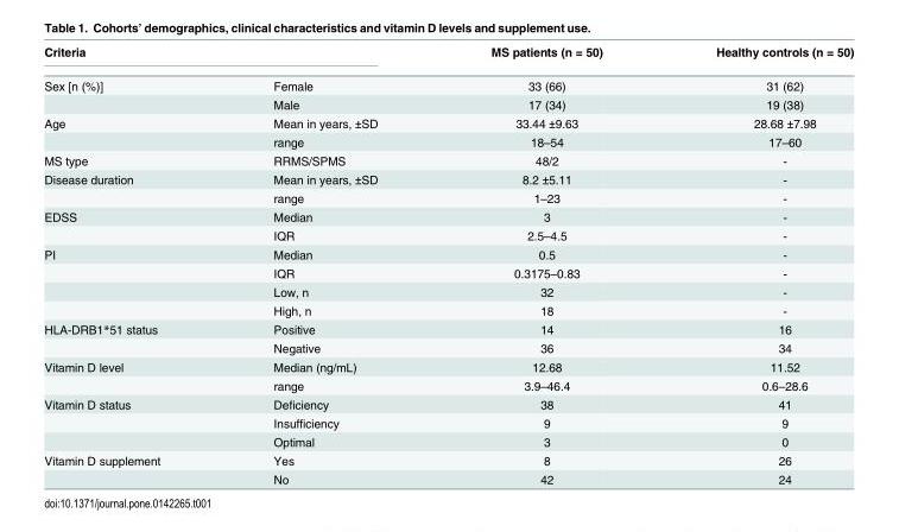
<table><thead><tr><td colspan="2">Criteria</td><td rowspan="2">MS patients (n = 50) 33 (66)</td><td rowspan="2">Healthy controls (n = 50) 31 (62)</td></tr><tr><td>Sex [n (%)]</td><td>Female</td></tr></thead><tbody><tr><td></td><td>Male</td><td>17 (34)</td><td>19 (38)</td></tr><tr><td rowspan="2">Age</td><td>Mean in years, ±SD</td><td>33.44 ±9.63</td><td>28.68 ±7.98</td></tr><tr><td>range</td><td>18–54</td><td>17–60</td></tr><tr><td>MS type</td><td>RRMS/SPMS</td><td>48/2</td><td>-</td></tr><tr><td rowspan="2">Disease duration</td><td>Mean in years, ±SD</td><td>8.2 ±5.11</td><td>-</td></tr><tr><td>range</td><td>1–23</td><td>-</td></tr><tr><td rowspan="2">EDSS</td><td>Median</td><td>3</td><td>-</td></tr><tr><td>IQR</td><td>2.5–4.5</td><td>-</td></tr><tr><td rowspan="4">PI</td><td>Median</td><td>0.5</td><td>-</td></tr><tr><td>IQR</td><td>0.3175–0.83</td><td>-</td></tr><tr><td>Low, n</td><td>32</td><td>-</td></tr><tr><td>High, n</td><td>18</td><td>-</td></tr><tr><td rowspan="2">HLA-DRB1*51 status</td><td>Positive</td><td>14</td><td>16</td></tr><tr><td>Negative</td><td>36</td><td>34</td></tr><tr><td rowspan="2">Vitamin D level</td><td>Median (ng/mL)</td><td>12.68</td><td>11.52</td></tr><tr><td>range</td><td>3.9–46.4</td><td>0.6–28.6</td></tr><tr><td rowspan="3">Vitamin D status</td><td>Deficiency</td><td>38</td><td>41</td></tr><tr><td>Insufficiency</td><td>9</td><td>9</td></tr><tr><td>Optimal</td><td>3</td><td>0</td></tr><tr><td rowspan="2">Vitamin D supplement</td><td>Yes</td><td>8</td><td>26</td></tr><tr><td>No</td><td>42</td><td>24</td></tr></tbody></table>